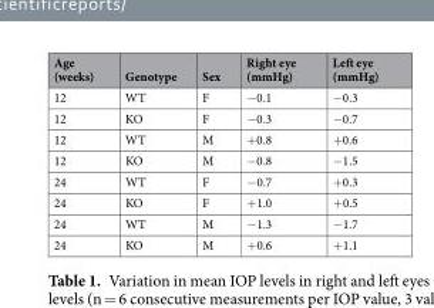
<table><thead><tr><td>Age (weeks)</td><td>Genotype</td><td>Sex</td><td>Right eye (mmHg)</td><td>Left eye (mmHg)</td></tr></thead><tbody><tr><td>12</td><td>WT</td><td>F</td><td>−0.1</td><td>−0.3</td></tr><tr><td>12</td><td>KO</td><td>F</td><td>−0.3</td><td>−0.7</td></tr><tr><td>12</td><td>WT</td><td>M</td><td>+0.8</td><td>+0.6</td></tr><tr><td>12</td><td>KO</td><td>M</td><td>−0.8</td><td>−1.5</td></tr><tr><td>24</td><td>WT</td><td>F</td><td>−0.7</td><td>+0.3</td></tr><tr><td>24</td><td>KO</td><td>F</td><td>+1.0</td><td>+0.5</td></tr><tr><td>24</td><td>WT</td><td>M</td><td>−1.3</td><td>−1.7</td></tr><tr><td>24</td><td>KO</td><td>M</td><td>+0.6</td><td>+1.1</td></tr></tbody></table>